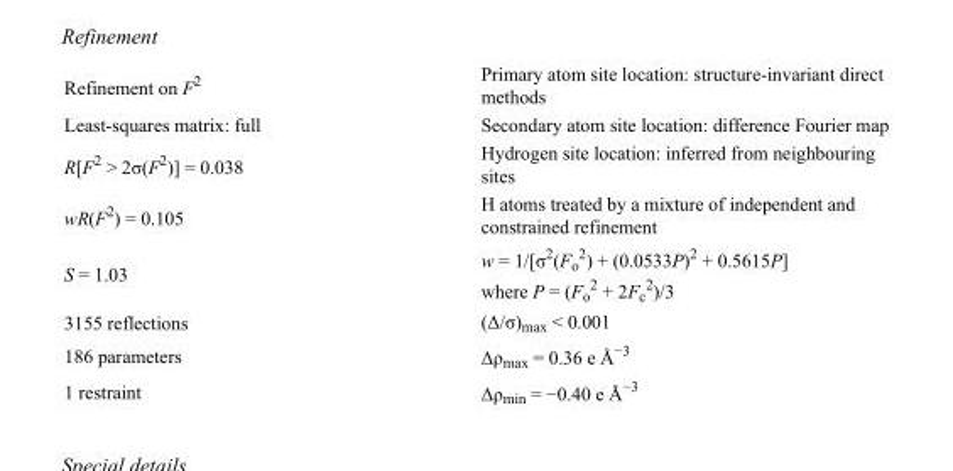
<table><tbody><tr><td>Refinement on F<sup>2</sup></td><td>Primary atom site location: structure-invariant direct methods</td></tr><tr><td>Least-squares matrix: full</td><td>Secondary atom site location: difference Fourier map</td></tr><tr><td>R[F<sup>2</sup> &gt; 2σ(F<sup>2</sup>)] = 0.038</td><td>Hydrogen site location: inferred from neighbouring sites</td></tr><tr><td>wR(F<sup>2</sup>) = 0.105</td><td>H atoms treated by a mixture of independent and constrained refinement</td></tr><tr><td>S = 1.03</td><td>w = 1/[σ<sup>2</sup>(F<sub>o</sub> <sup>2</sup>) + (0.0533P)<sup>2</sup> + 0.5615P] where P = (F<sub>o</sub> <sup>2</sup> + 2F<sub>c</sub> <sup>2</sup>)/3</td></tr><tr><td>3155 reflections</td><td>(Δ/σ)<sub>max</sub> &lt; 0.001</td></tr><tr><td>186 parameters</td><td>Δρ<sub>max</sub> = 0.36 e Å<sup>−3</sup></td></tr><tr><td>1 restraint</td><td>Δρ<sub>min</sub> = −0.40 e Å<sup>−3</sup></td></tr></tbody></table>